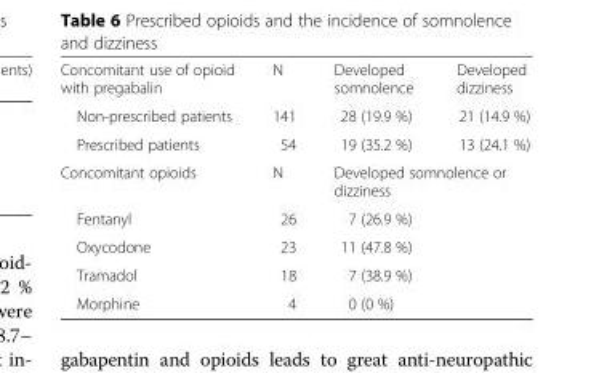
<table><tbody><tr><td>Concomitant use of opioid with pregabalin</td><td>N</td><td>Developed somnolence</td><td>Developed dizziness</td></tr><tr><td>Non-prescribed patients</td><td>141</td><td>28 (19.9 %)</td><td>21 (14.9 %)</td></tr><tr><td>Prescribed patients</td><td>54</td><td>19 (35.2 %)</td><td>13 (24.1 %)</td></tr><tr><td>Concomitant opioids</td><td>N</td><td colspan="2">Developed somnolence or dizziness</td></tr><tr><td>Fentanyl</td><td>26</td><td colspan="2">7 (26.9 %)</td></tr><tr><td>Oxycodone</td><td>23</td><td colspan="2">11 (47.8 %)</td></tr><tr><td>Tramadol</td><td>18</td><td colspan="2">7 (38.9 %)</td></tr><tr><td>Morphine</td><td>4</td><td colspan="2">0 (0 %)</td></tr></tbody></table>